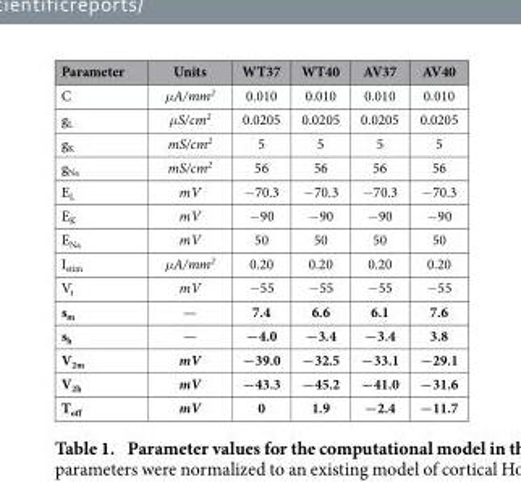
<table><thead><tr><td>Parameter</td><td>Units</td><td>WT37</td><td>WT40</td><td>AV37</td><td>AV40</td></tr></thead><tbody><tr><td>C</td><td>μA/mm<sup>2</sup></td><td>0.010</td><td>0.010</td><td>0.010</td><td>0.010</td></tr><tr><td>g<sub>L</sub></td><td>μS/cm<sup>2</sup></td><td>0.0205</td><td>0.0205</td><td>0.0205</td><td>0.0205</td></tr><tr><td>g<sub>K</sub></td><td>mS/cm<sup>2</sup></td><td>5</td><td>5</td><td>5</td><td>5</td></tr><tr><td>g<sub>Na</sub></td><td>mS/cm<sup>2</sup></td><td>56</td><td>56</td><td>56</td><td>56</td></tr><tr><td>E<sub>L</sub></td><td>mV</td><td>− 70.3</td><td>− 70.3</td><td>− 70.3</td><td>− 70.3</td></tr><tr><td>E<sub>K</sub></td><td>mV</td><td>− 90</td><td>− 90</td><td>− 90</td><td>− 90</td></tr><tr><td>E<sub>Na</sub></td><td>mV</td><td>50</td><td>50</td><td>50</td><td>50</td></tr><tr><td>I<sub>stim</sub></td><td>μA/mm<sup>2</sup></td><td>0.20</td><td>0.20</td><td>0.20</td><td>0.20</td></tr><tr><td>V<sub>t</sub></td><td>mV</td><td>− 55</td><td>− 55</td><td>− 55</td><td>− 55</td></tr><tr><td>s<sub>m</sub></td><td>—</td><td>7.4</td><td>6.6</td><td>6.1</td><td>7.6</td></tr><tr><td>s<sub>h</sub></td><td>—</td><td>−4.0</td><td>−3.4</td><td>−3.4</td><td>3.8</td></tr><tr><td>V<sub>2m</sub></td><td>mV</td><td>−39.0</td><td>−32.5</td><td>−33.1</td><td>−29.1</td></tr><tr><td>V<sub>2h</sub></td><td>mV</td><td>−43.3</td><td>−45.2</td><td>−41.0</td><td>−31.6</td></tr><tr><td>T<sub>off</sub></td><td>mV</td><td>0</td><td>1.9</td><td>−2.4</td><td>−11.7</td></tr></tbody></table>